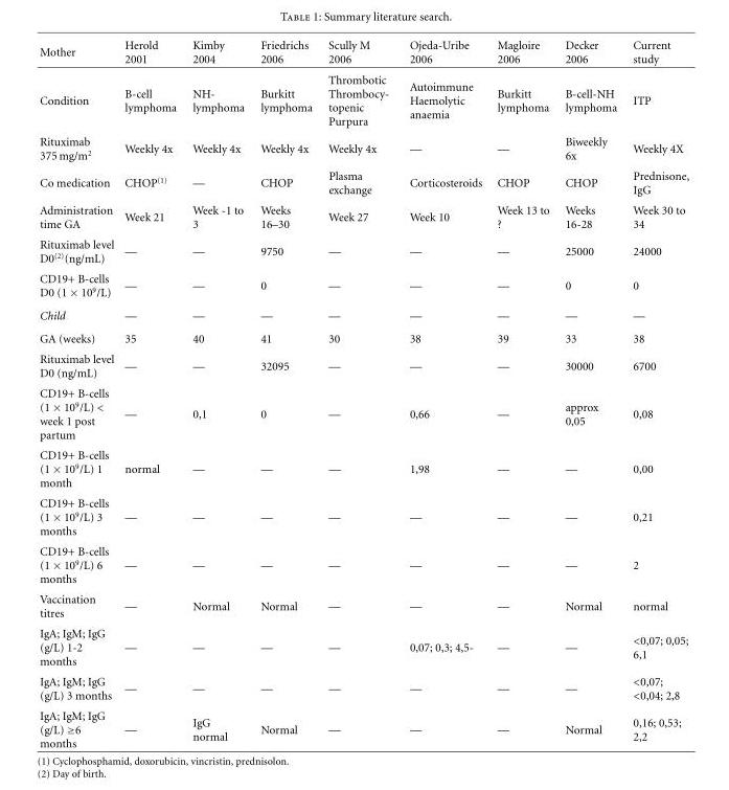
<table><thead><tr><td>Mother</td><td>Herold 2001</td><td>Kimby 2004</td><td>Friedrichs 2006</td><td>Scully M 2006</td><td>Ojeda-Uribe 2006</td><td>Magloire 2006</td><td>Decker 2006</td><td>Current study</td></tr></thead><tbody><tr><td>Condition</td><td>B-cell lymphoma</td><td>NH- lymphoma</td><td>Burkitt lymphoma</td><td>Thrombotic Thrombocy- topenic Purpura</td><td>Autoimmune Haemolytic anaemia</td><td>Burkitt lymphoma</td><td>B-cell-NH lymphoma</td><td>ITP</td></tr><tr><td>Rituximab 375 mg/m<sup>2</sup></td><td>Weekly 4x</td><td>Weekly 4x</td><td>Weekly 4x</td><td>Weekly 4x</td><td>—</td><td>—</td><td>Biweekly 6x</td><td>Weekly 4X</td></tr><tr><td>Co medication</td><td>CHOP<sup>(1)</sup></td><td>—</td><td>CHOP</td><td>Plasma exchange</td><td>Corticosteroids</td><td>CHOP</td><td>CHOP</td><td>Prednisone, IgG</td></tr><tr><td>Administration time GA</td><td>Week 21</td><td>Week -1 to 3</td><td>Weeks 16–30</td><td>Week 27</td><td>Week 10</td><td>Week 13 to ?</td><td>Weeks 16-28</td><td>Week 30 to 34</td></tr><tr><td>Rituximab level D0<sup>(2)</sup>(ng/mL)</td><td>—</td><td>—</td><td>9750</td><td>—</td><td>—</td><td>—</td><td>25000</td><td>24000</td></tr><tr><td>CD19+ B-cells D0 (1 × 10<sup>9</sup>/L)</td><td>—</td><td>—</td><td>0</td><td>—</td><td>—</td><td>—</td><td>0</td><td>0</td></tr><tr><td>Child</td><td>—</td><td>—</td><td>—</td><td>—</td><td>—</td><td>—</td><td>—</td><td>—</td></tr><tr><td>GA (weeks)</td><td>35</td><td>40</td><td>41</td><td>30</td><td>38</td><td>39</td><td>33</td><td>38</td></tr><tr><td>Rituximab level D0 (ng/mL)</td><td>—</td><td>—</td><td>32095</td><td>—</td><td>—</td><td>—</td><td>30000</td><td>6700</td></tr><tr><td>CD19+ B-cells (1 × 10<sup>9</sup>/L) &lt; week 1 post partum</td><td>—</td><td>0,1</td><td>0</td><td>—</td><td>0,66</td><td>—</td><td>approx 0,05</td><td>0,08</td></tr><tr><td>CD19+ B-cells (1 × 10<sup>9</sup>/L) 1 month</td><td>normal</td><td>—</td><td>—</td><td>—</td><td>1,98</td><td>—</td><td>—</td><td>0,00</td></tr><tr><td>CD19+ B-cells (1 × 10<sup>9</sup>/L) 3 months</td><td>—</td><td>—</td><td>—</td><td>—</td><td>—</td><td>—</td><td>—</td><td>0,21</td></tr><tr><td>CD19+ B-cells (1 × 10<sup>9</sup>/L) 6 months</td><td>—</td><td>—</td><td>—</td><td>—</td><td>—</td><td>—</td><td>—</td><td>2</td></tr><tr><td>Vaccination titres</td><td>—</td><td>Normal</td><td>Normal</td><td>—</td><td>—</td><td>—</td><td>Normal</td><td>normal</td></tr><tr><td>IgA; IgM; IgG (g/L) 1-2 months</td><td>—</td><td>—</td><td>—</td><td>—</td><td>0,07; 0,3; 4,5-</td><td>—</td><td>—</td><td>&lt;0,07; 0,05; 6,1</td></tr><tr><td>IgA; IgM; IgG (g/L) 3 months</td><td>—</td><td>—</td><td>—</td><td>—</td><td>—</td><td>—</td><td>—</td><td>&lt;0,07; &lt;0,04; 2,8</td></tr><tr><td>IgA; IgM; IgG (g/L) ≥6 months</td><td>—</td><td>IgG normal</td><td>Normal</td><td>—</td><td>—</td><td>—</td><td>Normal</td><td>0,16; 0,53; 2,2</td></tr></tbody></table>